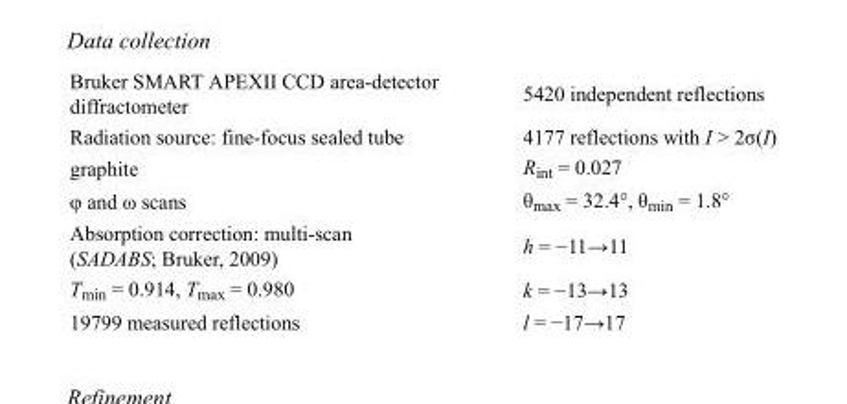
<table><tbody><tr><td>Bruker SMART APEXII CCD area-detector diffractometer</td><td>5420 independent reflections</td></tr><tr><td>Radiation source: fine-focus sealed tube</td><td>4177 reflections with I &gt; 2σ(I)</td></tr><tr><td>graphite</td><td>R<sub>int</sub> = 0.027</td></tr><tr><td>φ and ω scans</td><td>θ<sub>max</sub> = 32.4°, θ<sub>min</sub> = 1.8°</td></tr><tr><td>Absorption correction: multi-scan (SADABS; Bruker, 2009)</td><td>h = −11→11</td></tr><tr><td>T<sub>min</sub> = 0.914, T<sub>max</sub> = 0.980</td><td>k = −13→13</td></tr><tr><td>19799 measured reflections</td><td>l = −17→17</td></tr></tbody></table>